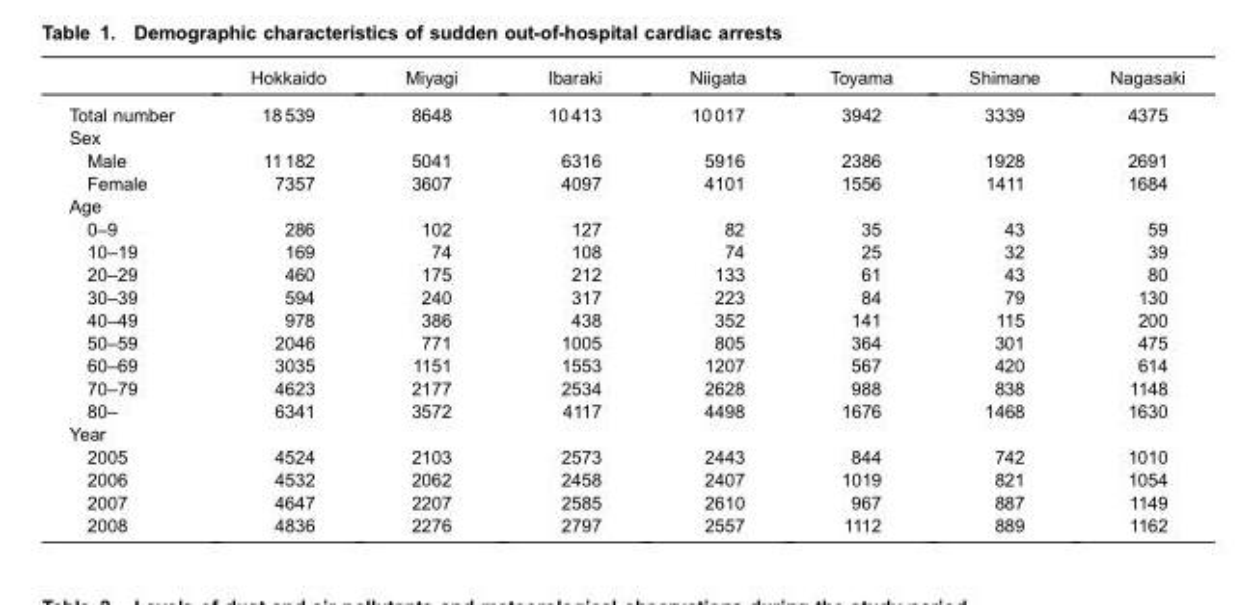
<table><thead><tr><td></td><td>Hokkaido</td><td>Miyagi</td><td>Ibaraki</td><td>Niigata</td><td>Toyama</td><td>Shimane</td><td>Nagasaki</td></tr></thead><tbody><tr><td>Total number</td><td>18 539</td><td>8648</td><td>10 413</td><td>10 017</td><td>3942</td><td>3339</td><td>4375</td></tr><tr><td colspan="8">Sex</td></tr><tr><td>Male</td><td>11 182</td><td>5041</td><td>6316</td><td>5916</td><td>2386</td><td>1928</td><td>2691</td></tr><tr><td>Female</td><td>7357</td><td>3607</td><td>4097</td><td>4101</td><td>1556</td><td>1411</td><td>1684</td></tr><tr><td colspan="8">Age</td></tr><tr><td>0–9</td><td>286</td><td>102</td><td>127</td><td>82</td><td>35</td><td>43</td><td>59</td></tr><tr><td>10–19</td><td>169</td><td>74</td><td>108</td><td>74</td><td>25</td><td>32</td><td>39</td></tr><tr><td>20–29</td><td>460</td><td>175</td><td>212</td><td>133</td><td>61</td><td>43</td><td>80</td></tr><tr><td>30–39</td><td>594</td><td>240</td><td>317</td><td>223</td><td>84</td><td>79</td><td>130</td></tr><tr><td>40–49</td><td>978</td><td>386</td><td>438</td><td>352</td><td>141</td><td>115</td><td>200</td></tr><tr><td>50–59</td><td>2046</td><td>771</td><td>1005</td><td>805</td><td>364</td><td>301</td><td>475</td></tr><tr><td>60–69</td><td>3035</td><td>1151</td><td>1553</td><td>1207</td><td>567</td><td>420</td><td>614</td></tr><tr><td>70–79</td><td>4623</td><td>2177</td><td>2534</td><td>2628</td><td>988</td><td>838</td><td>1148</td></tr><tr><td>80–</td><td>6341</td><td>3572</td><td>4117</td><td>4498</td><td>1676</td><td>1468</td><td>1630</td></tr><tr><td colspan="8">Year</td></tr><tr><td>2005</td><td>4524</td><td>2103</td><td>2573</td><td>2443</td><td>844</td><td>742</td><td>1010</td></tr><tr><td>2006</td><td>4532</td><td>2062</td><td>2458</td><td>2407</td><td>1019</td><td>821</td><td>1054</td></tr><tr><td>2007</td><td>4647</td><td>2207</td><td>2585</td><td>2610</td><td>967</td><td>887</td><td>1149</td></tr><tr><td>2008</td><td>4836</td><td>2276</td><td>2797</td><td>2557</td><td>1112</td><td>889</td><td>1162</td></tr></tbody></table>